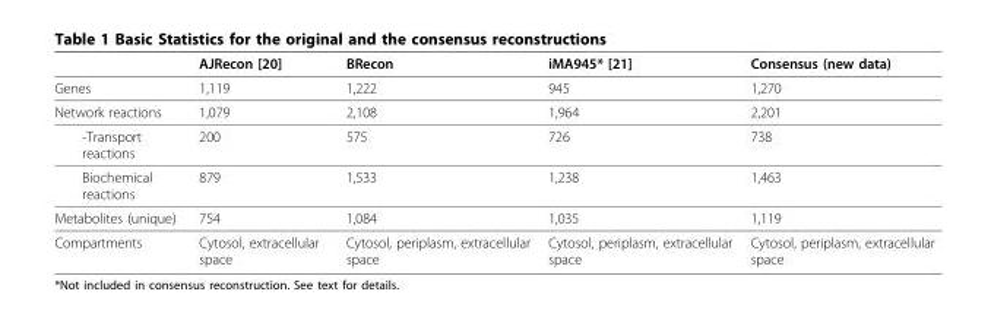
<table><thead><tr><td></td><td>AJRecon [20]</td><td>BRecon</td><td>iMA945* [21]</td><td>Consensus (new data)</td></tr></thead><tbody><tr><td>Genes</td><td>1,119</td><td>1,222</td><td>945</td><td>1,270</td></tr><tr><td>Network reactions</td><td>1,079</td><td>2,108</td><td>1,964</td><td>2,201</td></tr><tr><td>-Transport reactions</td><td>200</td><td>575</td><td>726</td><td>738</td></tr><tr><td>Biochemical reactions</td><td>879</td><td>1,533</td><td>1,238</td><td>1,463</td></tr><tr><td>Metabolites (unique)</td><td>754</td><td>1,084</td><td>1,035</td><td>1,119</td></tr><tr><td>Compartments</td><td>Cytosol, extracellular space</td><td>Cytosol, periplasm, extracellular space</td><td>Cytosol, periplasm, extracellular space</td><td>Cytosol, periplasm, extracellular space</td></tr></tbody></table>